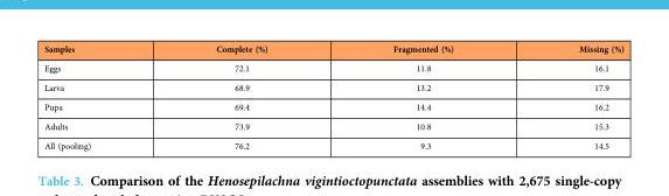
<table><thead><tr><td>Samples</td><td>Complete (%)</td><td>Fragmented (%)</td><td>Missing (%)</td></tr></thead><tbody><tr><td>Eggs</td><td>72.1</td><td>11.8</td><td>16.1</td></tr><tr><td>Larva</td><td>68.9</td><td>13.2</td><td>17.9</td></tr><tr><td>Pupa</td><td>69.4</td><td>14.4</td><td>16.2</td></tr><tr><td>Adults</td><td>73.9</td><td>10.8</td><td>15.3</td></tr><tr><td>All (pooling)</td><td>76.2</td><td>9.3</td><td>14.5</td></tr></tbody></table>